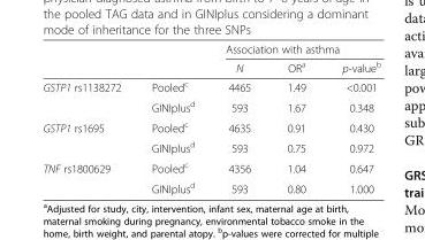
<table><thead><tr><td rowspan="2"></td><td rowspan="2"></td><td colspan="3">Association with asthma</td></tr><tr><td>N</td><td>OR<sup>a</sup></td><td>p-value<sup>b</sup></td></tr></thead><tbody><tr><td rowspan="2">GSTP1 rs1138272</td><td>Pooled<sup>c</sup></td><td>4465</td><td>1.49</td><td>&lt;0.001</td></tr><tr><td>GINIplus<sup>d</sup></td><td>593</td><td>1.67</td><td>0.348</td></tr><tr><td rowspan="2">GSTP1 rs1695</td><td>Pooled<sup>c</sup></td><td>4635</td><td>0.91</td><td>0.430</td></tr><tr><td>GINIplus<sup>d</sup></td><td>593</td><td>0.75</td><td>0.972</td></tr><tr><td rowspan="2">TNF rs1800629</td><td>Pooled<sup>c</sup></td><td>4356</td><td>1.04</td><td>0.647</td></tr><tr><td>GINIplus<sup>d</sup></td><td>593</td><td>0.80</td><td>1.000</td></tr></tbody></table>